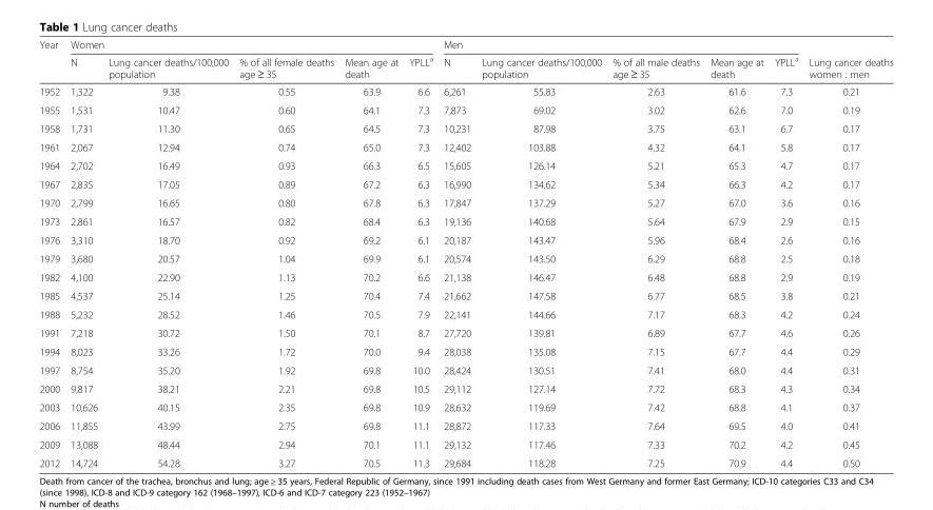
<table><thead><tr><td rowspan="2">Year</td><td colspan="5">Women</td><td colspan="5">Men</td><td rowspan="2">Lung cancer deaths women : men</td></tr><tr><td>N</td><td>Lung cancer deaths/100,000 population</td><td>% of all female deaths age ≥ 35</td><td>Mean age at death</td><td>YPLL<sup>a</sup></td><td>N</td><td>Lung cancer deaths/100,000 population</td><td>% of all male deaths age ≥ 35</td><td>Mean age at death</td><td>YPLL<sup>a</sup></td></tr></thead><tbody><tr><td>1952</td><td>1,322</td><td>9.38</td><td>0.55</td><td>63.9</td><td>6.6</td><td>6,261</td><td>55.83</td><td>2.63</td><td>61.6</td><td>7.3</td><td>0.21</td></tr><tr><td>1955</td><td>1,531</td><td>10.47</td><td>0.60</td><td>64.1</td><td>7.3</td><td>7,873</td><td>69.02</td><td>3.02</td><td>62.6</td><td>7.0</td><td>0.19</td></tr><tr><td>1958</td><td>1,731</td><td>11.30</td><td>0.65</td><td>64.5</td><td>7.3</td><td>10,231</td><td>87.98</td><td>3.75</td><td>63.1</td><td>6.7</td><td>0.17</td></tr><tr><td>1961</td><td>2,067</td><td>12.94</td><td>0.74</td><td>65.0</td><td>7.3</td><td>12,402</td><td>103.88</td><td>4.32</td><td>64.1</td><td>5.8</td><td>0.17</td></tr><tr><td>1964</td><td>2,702</td><td>16.49</td><td>0.93</td><td>66.3</td><td>6.5</td><td>15,605</td><td>126.14</td><td>5.21</td><td>65.3</td><td>4.7</td><td>0.17</td></tr><tr><td>1967</td><td>2,835</td><td>17.05</td><td>0.89</td><td>67.2</td><td>6.3</td><td>16,990</td><td>134.62</td><td>5.34</td><td>66.3</td><td>4.2</td><td>0.17</td></tr><tr><td>1970</td><td>2,799</td><td>16.65</td><td>0.80</td><td>67.8</td><td>6.3</td><td>17,847</td><td>137.29</td><td>5.27</td><td>67.0</td><td>3.6</td><td>0.16</td></tr><tr><td>1973</td><td>2,861</td><td>16.57</td><td>0.82</td><td>68.4</td><td>6.3</td><td>19,136</td><td>140.68</td><td>5.64</td><td>67.9</td><td>2.9</td><td>0.15</td></tr><tr><td>1976</td><td>3,310</td><td>18.70</td><td>0.92</td><td>69.2</td><td>6.1</td><td>20,187</td><td>143.47</td><td>5.96</td><td>68.4</td><td>2.6</td><td>0.16</td></tr><tr><td>1979</td><td>3,680</td><td>20.57</td><td>1.04</td><td>69.9</td><td>6.1</td><td>20,574</td><td>143.50</td><td>6.29</td><td>68.8</td><td>2.5</td><td>0.18</td></tr><tr><td>1982</td><td>4,100</td><td>22.90</td><td>1.13</td><td>70.2</td><td>6.6</td><td>21,138</td><td>146.47</td><td>6.48</td><td>68.8</td><td>2.9</td><td>0.19</td></tr><tr><td>1985</td><td>4,537</td><td>25.14</td><td>1.25</td><td>70.4</td><td>7.4</td><td>21,662</td><td>147.58</td><td>6.77</td><td>68.5</td><td>3.8</td><td>0.21</td></tr><tr><td>1988</td><td>5,232</td><td>28.52</td><td>1.46</td><td>70.5</td><td>7.9</td><td>22,141</td><td>144.66</td><td>7.17</td><td>68.3</td><td>4.2</td><td>0.24</td></tr><tr><td>1991</td><td>7,218</td><td>30.72</td><td>1.50</td><td>70.1</td><td>8.7</td><td>27,720</td><td>139.81</td><td>6.89</td><td>67.7</td><td>4.6</td><td>0.26</td></tr><tr><td>1994</td><td>8,023</td><td>33.26</td><td>1.72</td><td>70.0</td><td>9.4</td><td>28,038</td><td>135.08</td><td>7.15</td><td>67.7</td><td>4.4</td><td>0.29</td></tr><tr><td>1997</td><td>8,754</td><td>35.20</td><td>1.92</td><td>69.8</td><td>10.0</td><td>28,424</td><td>130.51</td><td>7.41</td><td>68.0</td><td>4.4</td><td>0.31</td></tr><tr><td>2000</td><td>9,817</td><td>38.21</td><td>2.21</td><td>69.8</td><td>10.5</td><td>29,112</td><td>127.14</td><td>7.72</td><td>68.3</td><td>4.3</td><td>0.34</td></tr><tr><td>2003</td><td>10,626</td><td>40.15</td><td>2.35</td><td>69.8</td><td>10.9</td><td>28,632</td><td>119.69</td><td>7.42</td><td>68.8</td><td>4.1</td><td>0.37</td></tr><tr><td>2006</td><td>11,855</td><td>43.99</td><td>2.75</td><td>69.8</td><td>11.1</td><td>28,872</td><td>117.33</td><td>7.64</td><td>69.5</td><td>4.0</td><td>0.41</td></tr><tr><td>2009</td><td>13,088</td><td>48.44</td><td>2.94</td><td>70.1</td><td>11.1</td><td>29,132</td><td>117.46</td><td>7.33</td><td>70.2</td><td>4.2</td><td>0.45</td></tr><tr><td>2012</td><td>14,724</td><td>54.28</td><td>3.27</td><td>70.5</td><td>11.3</td><td>29,684</td><td>118.28</td><td>7.25</td><td>70.9</td><td>4.4</td><td>0.50</td></tr></tbody></table>